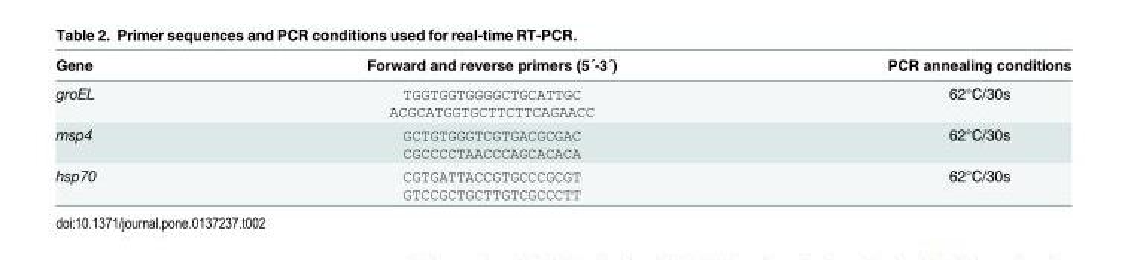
<table><thead><tr><td>Gene</td><td>Forward and reverse primers (5´-3´)</td><td>PCR annealing conditions</td></tr></thead><tbody><tr><td>groEL</td><td>TGGTGGTGGGGCTGCATTGC ACGCATGGTGCTTCTTCAGAACC</td><td>62°C/30s</td></tr><tr><td>msp4</td><td>GCTGTGGGTCGTGACGCGAC CGCCCCTAACCCAGCACACA</td><td>62°C/30s</td></tr><tr><td>hsp70</td><td>CGTGATTACCGTGCCCGCGT GTCCGCTGCTTGTCGCCCTT</td><td>62°C/30s</td></tr></tbody></table>